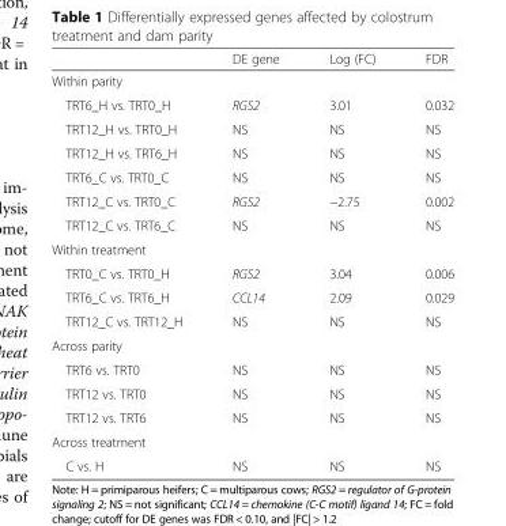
<table><thead><tr><td></td><td>DE gene</td><td>Log (FC)</td><td>FDR</td></tr></thead><tbody><tr><td colspan="4">Within parity</td></tr><tr><td>TRT6_H vs. TRT0_H</td><td>RGS2</td><td>3.01</td><td>0.032</td></tr><tr><td>TRT12_H vs. TRT0_H</td><td>NS</td><td>NS</td><td>NS</td></tr><tr><td>TRT12_H vs. TRT6_H</td><td>NS</td><td>NS</td><td>NS</td></tr><tr><td>TRT6_C vs. TRT0_C</td><td>NS</td><td>NS</td><td>NS</td></tr><tr><td>TRT12_C vs. TRT0_C</td><td>RGS2</td><td>−2.75</td><td>0.002</td></tr><tr><td>TRT12_C vs. TRT6_C</td><td>NS</td><td>NS</td><td>NS</td></tr><tr><td colspan="4">Within treatment</td></tr><tr><td>TRT0_C vs. TRT0_H</td><td>RGS2</td><td>3.04</td><td>0.006</td></tr><tr><td>TRT6_C vs. TRT6_H</td><td>CCL14</td><td>2.09</td><td>0.029</td></tr><tr><td>TRT12_C vs. TRT12_H</td><td>NS</td><td>NS</td><td>NS</td></tr><tr><td colspan="4">Across parity</td></tr><tr><td>TRT6 vs. TRT0</td><td>NS</td><td>NS</td><td>NS</td></tr><tr><td>TRT12 vs. TRT0</td><td>NS</td><td>NS</td><td>NS</td></tr><tr><td>TRT12 vs. TRT6</td><td>NS</td><td>NS</td><td>NS</td></tr><tr><td colspan="4">Across treatment</td></tr><tr><td>C vs. H</td><td>NS</td><td>NS</td><td>NS</td></tr></tbody></table>